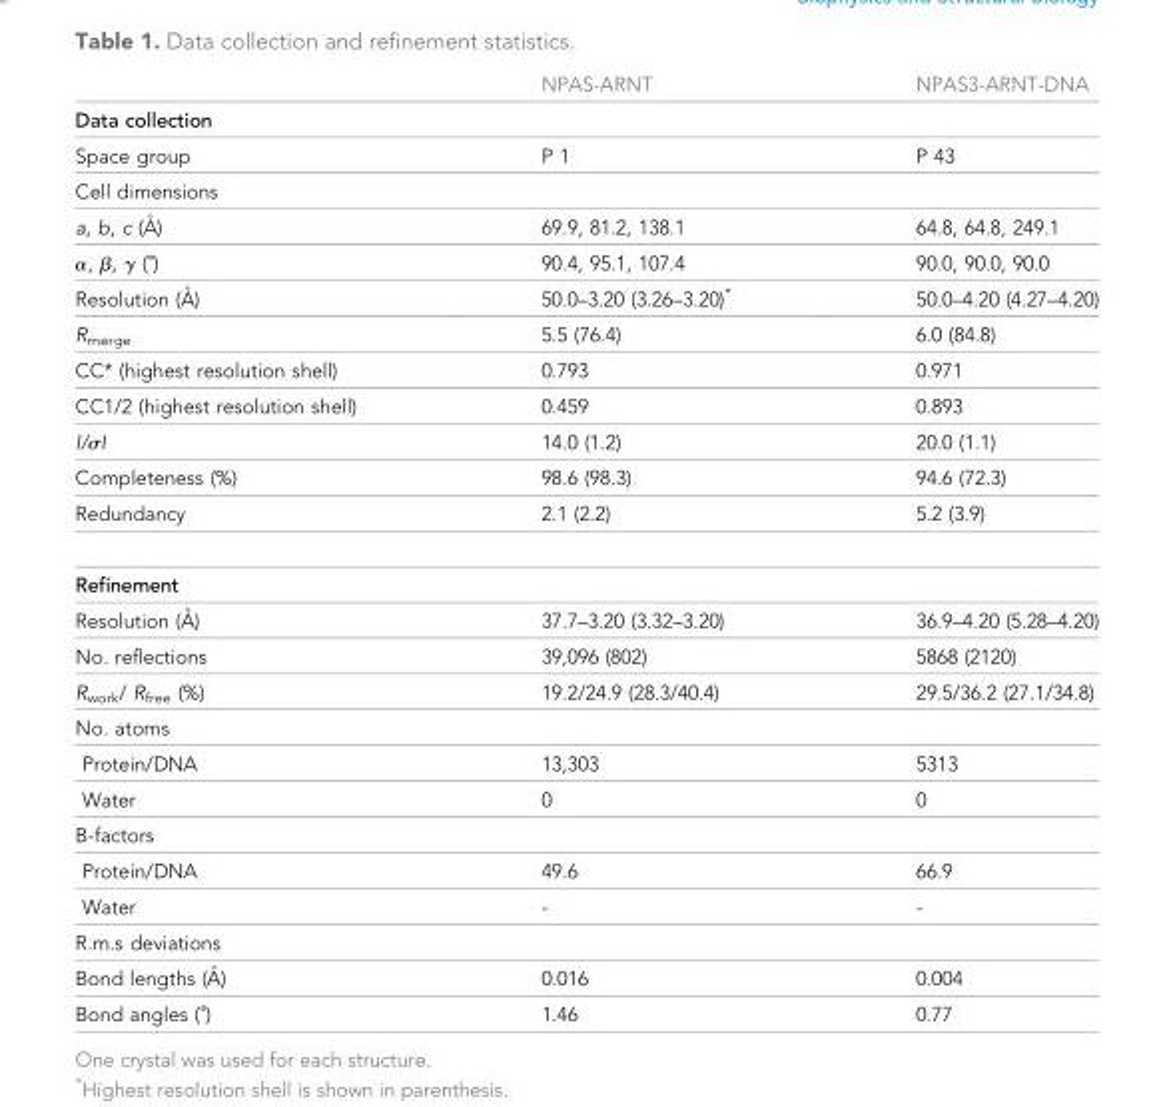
<table><thead><tr><td></td><td>NPAS-ARNT</td><td>NPAS3-ARNT-DNA</td></tr></thead><tbody><tr><td colspan="3">Data collection</td></tr><tr><td>Space group</td><td>P 1</td><td>P 43</td></tr><tr><td colspan="3">Cell dimensions</td></tr><tr><td>a, b, c (A˚ )</td><td>69.9, 81.2, 138.1</td><td>64.8, 64.8, 249.1</td></tr><tr><td>α, β, γ (˚)</td><td>90.4, 95.1, 107.4</td><td>90.0, 90.0, 90.0</td></tr><tr><td>Resolution (A˚ )</td><td>50.0–3.20 (3.26–3.20)*</td><td>50.0–4.20 (4.27–4.20)</td></tr><tr><td>R<sub>merge</sub></td><td>5.5 (76.4)</td><td>6.0 (84.8)</td></tr><tr><td>CC* (highest resolution shell)</td><td>0.793</td><td>0.971</td></tr><tr><td>CC1/2 (highest resolution shell)</td><td>0.459</td><td>0.893</td></tr><tr><td>I/σI</td><td>14.0 (1.2)</td><td>20.0 (1.1)</td></tr><tr><td>Completeness (%)</td><td>98.6 (98.3)</td><td>94.6 (72.3)</td></tr><tr><td>Redundancy</td><td>2.1 (2.2)</td><td>5.2 (3.9)</td></tr><tr><td colspan="3">Refinement</td></tr><tr><td>Resolution (A˚ )</td><td>37.7–3.20 (3.32–3.20)</td><td>36.9–4.20 (5.28–4.20)</td></tr><tr><td>No. reflections</td><td>39,096 (802)</td><td>5868 (2120)</td></tr><tr><td>R<sub>work</sub>/ R<sub>free</sub> (%)</td><td>19.2/24.9 (28.3/40.4)</td><td>29.5/36.2 (27.1/34.8)</td></tr><tr><td colspan="3">No. atoms</td></tr><tr><td>Protein/DNA</td><td>13,303</td><td>5313</td></tr><tr><td>Water</td><td>0</td><td>0</td></tr><tr><td colspan="3">B-factors</td></tr><tr><td>Protein/DNA</td><td>49.6</td><td>66.9</td></tr><tr><td>Water</td><td>-</td><td>-</td></tr><tr><td colspan="3">R.m.s deviations</td></tr><tr><td>Bond lengths (A˚ )</td><td>0.016</td><td>0.004</td></tr><tr><td>Bond angles (˚)</td><td>1.46</td><td>0.77</td></tr></tbody></table>